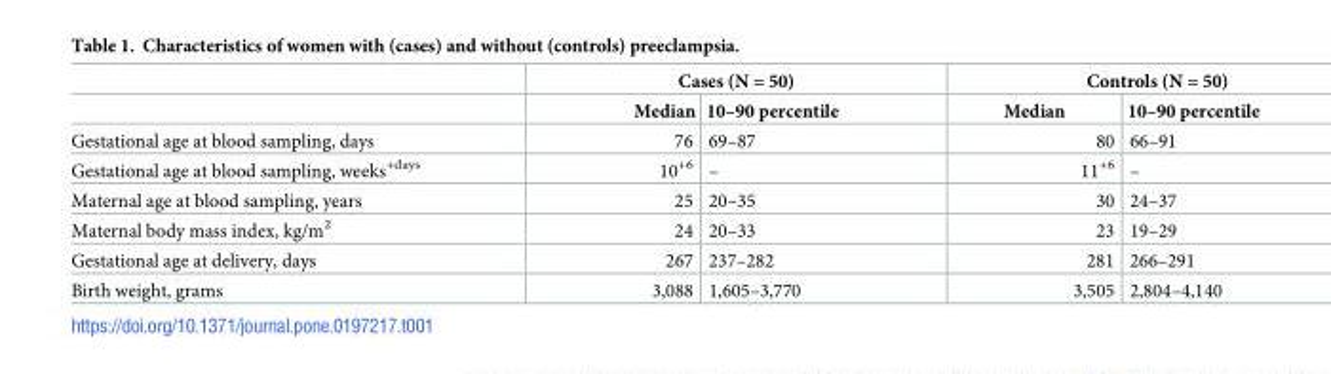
<table><thead><tr><td rowspan="2"></td><td colspan="2">Cases (N = 50)</td><td colspan="2">Controls (N = 50)</td></tr><tr><td>Median</td><td>10–90 percentile</td><td>Median</td><td>10–90 percentile</td></tr></thead><tbody><tr><td>Gestational age at blood sampling, days</td><td>76</td><td>69–87</td><td>80</td><td>66–91</td></tr><tr><td>Gestational age at blood sampling, weeks<sup>+days</sup></td><td>10<sup>+6</sup></td><td>–</td><td>11<sup>+6</sup></td><td>–</td></tr><tr><td>Maternal age at blood sampling, years</td><td>25</td><td>20–35</td><td>30</td><td>24–37</td></tr><tr><td>Maternal body mass index, kg/m<sup>2</sup></td><td>24</td><td>20–33</td><td>23</td><td>19–29</td></tr><tr><td>Gestational age at delivery, days</td><td>267</td><td>237–282</td><td>281</td><td>266–291</td></tr><tr><td>Birth weight, grams</td><td>3,088</td><td>1,605–3,770</td><td>3,505</td><td>2,804–4,140</td></tr></tbody></table>